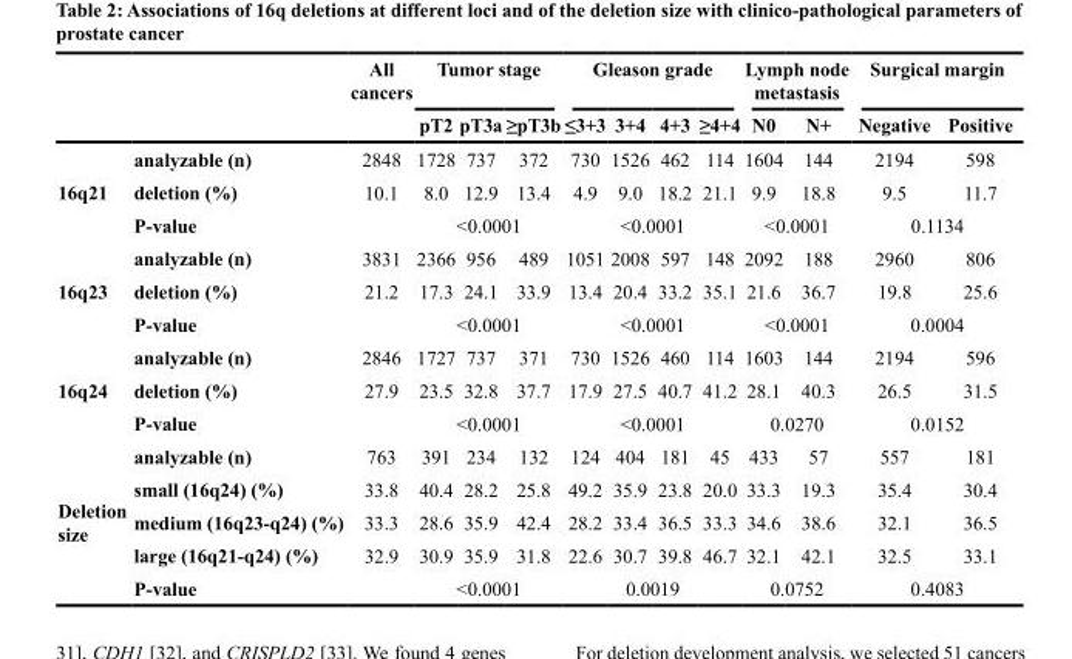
<table><thead><tr><td rowspan="2"></td><td rowspan="2"></td><td rowspan="2">All cancers</td><td colspan="3">Tumor stage</td><td colspan="4">Gleason grade</td><td colspan="2">Lymph node metastasis</td><td colspan="2">Surgical margin</td></tr><tr><td>pT2</td><td>pT3a</td><td>≥pT3b</td><td>≤3+3</td><td>3+4</td><td>4+3</td><td>≥4+4</td><td>N0</td><td>N+</td><td>Negative</td><td>Positive</td></tr></thead><tbody><tr><td rowspan="3">16q21</td><td>analyzable (n)</td><td>2848</td><td>1728</td><td>737</td><td>372</td><td>730</td><td>1526</td><td>462</td><td>114</td><td>1604</td><td>144</td><td>2194</td><td>598</td></tr><tr><td>deletion (%)</td><td>10.1</td><td>8.0</td><td>12.9</td><td>13.4</td><td>4.9</td><td>9.0</td><td>18.2</td><td>21.1</td><td>9.9</td><td>18.8</td><td>9.5</td><td>11.7</td></tr><tr><td>P-value</td><td></td><td colspan="3">&lt;0.0001</td><td colspan="4">&lt;0.0001</td><td colspan="2">&lt;0.0001</td><td colspan="2">0.1134</td></tr><tr><td rowspan="3">16q23</td><td>analyzable (n)</td><td>3831</td><td>2366</td><td>956</td><td>489</td><td>1051</td><td>2008</td><td>597</td><td>148</td><td>2092</td><td>188</td><td>2960</td><td>806</td></tr><tr><td>deletion (%)</td><td>21.2</td><td>17.3</td><td>24.1</td><td>33.9</td><td>13.4</td><td>20.4</td><td>33.2</td><td>35.1</td><td>21.6</td><td>36.7</td><td>19.8</td><td>25.6</td></tr><tr><td>P-value</td><td></td><td colspan="3">&lt;0.0001</td><td colspan="4">&lt;0.0001</td><td colspan="2">&lt;0.0001</td><td colspan="2">0.0004</td></tr><tr><td rowspan="3">16q24</td><td>analyzable (n)</td><td>2846</td><td>1727</td><td>737</td><td>371</td><td>730</td><td>1526</td><td>460</td><td>114</td><td>1603</td><td>144</td><td>2194</td><td>596</td></tr><tr><td>deletion (%)</td><td>27.9</td><td>23.5</td><td>32.8</td><td>37.7</td><td>17.9</td><td>27.5</td><td>40.7</td><td>41.2</td><td>28.1</td><td>40.3</td><td>26.5</td><td>31.5</td></tr><tr><td>P-value</td><td></td><td colspan="3">&lt;0.0001</td><td colspan="4">&lt;0.0001</td><td colspan="2">0.0270</td><td colspan="2">0.0152</td></tr><tr><td rowspan="5">Deletion size</td><td>analyzable (n)</td><td>763</td><td>391</td><td>234</td><td>132</td><td>124</td><td>404</td><td>181</td><td>45</td><td>433</td><td>57</td><td>557</td><td>181</td></tr><tr><td>small (16q24) (%)</td><td>33.8</td><td>40.4</td><td>28.2</td><td>25.8</td><td>49.2</td><td>35.9</td><td>23.8</td><td>20.0</td><td>33.3</td><td>19.3</td><td>35.4</td><td>30.4</td></tr><tr><td>medium (16q23-q24) (%)</td><td>33.3</td><td>28.6</td><td>35.9</td><td>42.4</td><td>28.2</td><td>33.4</td><td>36.5</td><td>33.3</td><td>34.6</td><td>38.6</td><td>32.1</td><td>36.5</td></tr><tr><td>large (16q21-q24) (%)</td><td>32.9</td><td>30.9</td><td>35.9</td><td>31.8</td><td>22.6</td><td>30.7</td><td>39.8</td><td>46.7</td><td>32.1</td><td>42.1</td><td>32.5</td><td>33.1</td></tr><tr><td>P-value</td><td></td><td colspan="3">&lt;0.0001</td><td colspan="4">0.0019</td><td colspan="2">0.0752</td><td colspan="2">0.4083</td></tr></tbody></table>